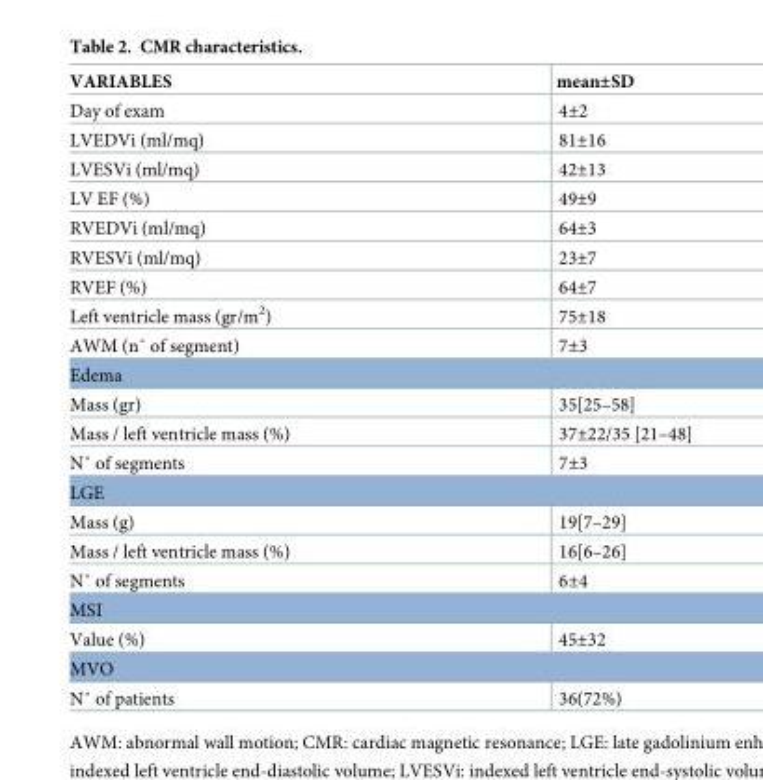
<table><thead><tr><td>VARIABLES</td><td>mean±SD</td></tr></thead><tbody><tr><td>Day of exam</td><td>4±2</td></tr><tr><td>LVEDVi (ml/mq)</td><td>81±16</td></tr><tr><td>LVESVi (ml/mq)</td><td>42±13</td></tr><tr><td>LV EF (%)</td><td>49±9</td></tr><tr><td>RVEDVi (ml/mq)</td><td>64±3</td></tr><tr><td>RVESVi (ml/mq)</td><td>23±7</td></tr><tr><td>RVEF (%)</td><td>64±7</td></tr><tr><td>Left ventricle mass (gr/m<sup>2</sup>)</td><td>75±18</td></tr><tr><td>AWM (n˚ of segment)</td><td>7±3</td></tr><tr><td colspan="2">Edema</td></tr><tr><td>Mass (gr)</td><td>35[25–58]</td></tr><tr><td>Mass / left ventricle mass (%)</td><td>37±22/35 [21–48]</td></tr><tr><td>N˚ of segments</td><td>7±3</td></tr><tr><td colspan="2">LGE</td></tr><tr><td>Mass (g)</td><td>19[7–29]</td></tr><tr><td>Mass / left ventricle mass (%)</td><td>16[6–26]</td></tr><tr><td>N˚ of segments</td><td>6±4</td></tr><tr><td colspan="2">MSI</td></tr><tr><td>Value (%)</td><td>45±32</td></tr><tr><td colspan="2">MVO</td></tr><tr><td>N˚ of patients</td><td>36(72%)</td></tr></tbody></table>